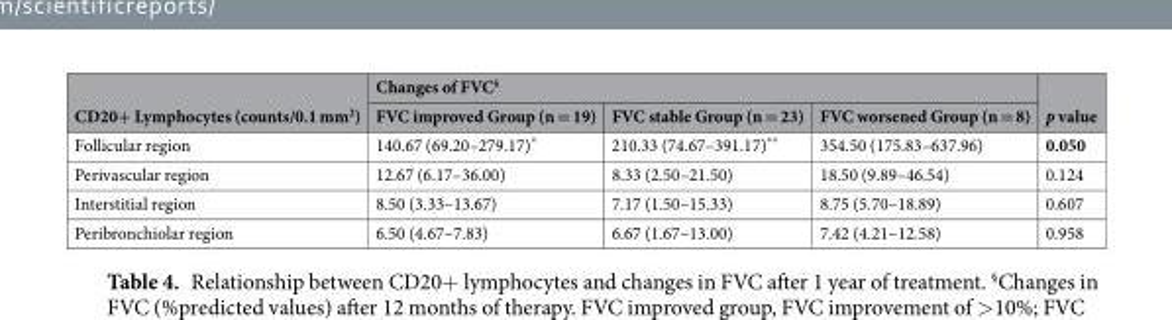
<table><thead><tr><td rowspan="2">CD20+ Lymphocytes (counts/0.1 mm<sup>2</sup>)</td><td colspan="3">Changes of FVC<sup>§</sup></td><td rowspan="2">p value</td></tr><tr><td>FVC improved Group (n = 19)</td><td>FVC stable Group (n = 23)</td><td>FVC worsened Group (n = 8)</td></tr></thead><tbody><tr><td>Follicular region</td><td>140.67 (69.20–279.17)*</td><td>210.33 (74.67–391.17)**</td><td>354.50 (175.83–637.96)</td><td>0.050</td></tr><tr><td>Perivascular region</td><td>12.67 (6.17–36.00)</td><td>8.33 (2.50–21.50)</td><td>18.50 (9.89–46.54)</td><td>0.124</td></tr><tr><td>Interstitial region</td><td>8.50 (3.33–13.67)</td><td>7.17 (1.50–15.33)</td><td>8.75 (5.70–18.89)</td><td>0.607</td></tr><tr><td>Peribronchiolar region</td><td>6.50 (4.67–7.83)</td><td>6.67 (1.67–13.00)</td><td>7.42 (4.21–12.58)</td><td>0.958</td></tr></tbody></table>